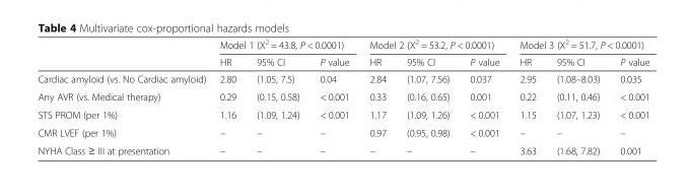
<table><thead><tr><td rowspan="2"></td><td colspan="3">Model 1 (X<sup>2</sup> = 43.8, P &lt; 0.0001)</td><td colspan="3">Model 2 (X<sup>2</sup> = 53.2, P &lt; 0.0001)</td><td colspan="3">Model 3 (X<sup>2</sup> = 51.7, P &lt; 0.0001)</td></tr><tr><td>HR</td><td>95% CI</td><td>P value</td><td>HR</td><td>95% CI</td><td>P value</td><td>HR</td><td>95% CI</td><td>P value</td></tr></thead><tbody><tr><td>Cardiac amyloid (vs. No Cardiac amyloid)</td><td>2.80</td><td>(1.05, 7.5)</td><td>0.04</td><td>2.84</td><td>(1.07, 7.56)</td><td>0.037</td><td>2.95</td><td>(1.08–8.03)</td><td>0.035</td></tr><tr><td>Any AVR (vs. Medical therapy)</td><td>0.29</td><td>(0.15, 0.58)</td><td>&lt; 0.001</td><td>0.33</td><td>(0.16, 0.65)</td><td>0.001</td><td>0.22</td><td>(0.11, 0.46)</td><td>&lt; 0.001</td></tr><tr><td>STS PROM (per 1%)</td><td>1.16</td><td>(1.09, 1.24)</td><td>&lt; 0.001</td><td>1.17</td><td>(1.09, 1.26)</td><td>&lt; 0.001</td><td>1.15</td><td>(1.07, 1.23)</td><td>&lt; 0.001</td></tr><tr><td>CMR LVEF (per 1%)</td><td>–</td><td>–</td><td>–</td><td>0.97</td><td>(0.95, 0.98)</td><td>&lt; 0.001</td><td>–</td><td>–</td><td>–</td></tr><tr><td>NYHA Class ≥ III at presentation</td><td>–</td><td>–</td><td>–</td><td>–</td><td>–</td><td>–</td><td>3.63</td><td>(1.68, 7.82)</td><td>0.001</td></tr></tbody></table>